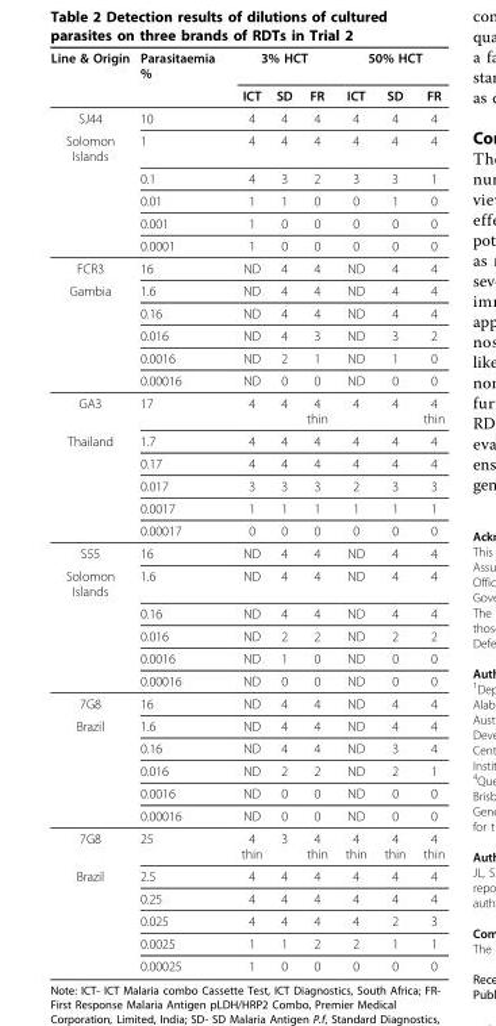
<table><thead><tr><td rowspan="2">Line &amp; Origin</td><td rowspan="2">Parasitaemia %</td><td colspan="3">3% HCT</td><td colspan="3">50% HCT</td></tr><tr><td>ICT</td><td>SD</td><td>FR</td><td>ICT</td><td>SD</td><td>FR</td></tr></thead><tbody><tr><td>SJ44</td><td>10</td><td>4</td><td>4</td><td>4</td><td>4</td><td>4</td><td>4</td></tr><tr><td rowspan="5">Solomon Islands</td><td>1</td><td>4</td><td>4</td><td>4</td><td>4</td><td>4</td><td>4</td></tr><tr><td>0.1</td><td>4</td><td>3</td><td>2</td><td>3</td><td>3</td><td>1</td></tr><tr><td>0.01</td><td>1</td><td>1</td><td>0</td><td>0</td><td>1</td><td>0</td></tr><tr><td>0.001</td><td>1</td><td>0</td><td>0</td><td>0</td><td>0</td><td>0</td></tr><tr><td>0.0001</td><td>1</td><td>0</td><td>0</td><td>0</td><td>0</td><td>0</td></tr><tr><td>FCR3</td><td>16</td><td>ND</td><td>4</td><td>4</td><td>ND</td><td>4</td><td>4</td></tr><tr><td rowspan="5">Gambia</td><td>1.6</td><td>ND</td><td>4</td><td>4</td><td>ND</td><td>4</td><td>4</td></tr><tr><td>0.16</td><td>ND</td><td>4</td><td>4</td><td>ND</td><td>4</td><td>4</td></tr><tr><td>0.016</td><td>ND</td><td>4</td><td>3</td><td>ND</td><td>3</td><td>2</td></tr><tr><td>0.0016</td><td>ND</td><td>2</td><td>1</td><td>ND</td><td>1</td><td>0</td></tr><tr><td>0.00016</td><td>ND</td><td>0</td><td>0</td><td>ND</td><td>0</td><td>0</td></tr><tr><td>GA3</td><td>17</td><td>4</td><td>4</td><td>4 thin</td><td>4</td><td>4</td><td>4 thin</td></tr><tr><td rowspan="5">Thailand</td><td>1.7</td><td>4</td><td>4</td><td>4</td><td>4</td><td>4</td><td>4</td></tr><tr><td>0.17</td><td>4</td><td>4</td><td>4</td><td>4</td><td>4</td><td>4</td></tr><tr><td>0.017</td><td>3</td><td>3</td><td>3</td><td>2</td><td>3</td><td>3</td></tr><tr><td>0.0017</td><td>1</td><td>1</td><td>1</td><td>1</td><td>1</td><td>1</td></tr><tr><td>0.00017</td><td>0</td><td>0</td><td>0</td><td>0</td><td>0</td><td>0</td></tr><tr><td>S55</td><td>16</td><td>ND</td><td>4</td><td>4</td><td>ND</td><td>4</td><td>4</td></tr><tr><td rowspan="5">Solomon Islands</td><td>1.6</td><td>ND</td><td>4</td><td>4</td><td>ND</td><td>4</td><td>4</td></tr><tr><td>0.16</td><td>ND</td><td>4</td><td>4</td><td>ND</td><td>4</td><td>4</td></tr><tr><td>0.016</td><td>ND</td><td>2</td><td>2</td><td>ND</td><td>2</td><td>2</td></tr><tr><td>0.0016</td><td>ND</td><td>1</td><td>0</td><td>ND</td><td>0</td><td>0</td></tr><tr><td>0.00016</td><td>ND</td><td>0</td><td>0</td><td>ND</td><td>0</td><td>0</td></tr><tr><td>7G8</td><td>16</td><td>ND</td><td>4</td><td>4</td><td>ND</td><td>4</td><td>4</td></tr><tr><td rowspan="5">Brazil</td><td>1.6</td><td>ND</td><td>4</td><td>4</td><td>ND</td><td>4</td><td>4</td></tr><tr><td>0.16</td><td>ND</td><td>4</td><td>4</td><td>ND</td><td>3</td><td>4</td></tr><tr><td>0.016</td><td>ND</td><td>2</td><td>2</td><td>ND</td><td>2</td><td>1</td></tr><tr><td>0.0016</td><td>ND</td><td>0</td><td>0</td><td>ND</td><td>0</td><td>0</td></tr><tr><td>0.00016</td><td>ND</td><td>0</td><td>0</td><td>ND</td><td>0</td><td>0</td></tr><tr><td>7G8</td><td>25</td><td>4 thin</td><td>3</td><td>4 thin</td><td>4 thin</td><td>4 thin</td><td>4 thin</td></tr><tr><td rowspan="5">Brazil</td><td>2.5</td><td>4</td><td>4</td><td>4</td><td>4</td><td>4</td><td>4</td></tr><tr><td>0.25</td><td>4</td><td>4</td><td>4</td><td>4</td><td>4</td><td>4</td></tr><tr><td>0.025</td><td>4</td><td>4</td><td>4</td><td>4</td><td>2</td><td>3</td></tr><tr><td>0.0025</td><td>1</td><td>1</td><td>2</td><td>2</td><td>1</td><td>1</td></tr><tr><td>0.00025</td><td>1</td><td>0</td><td>0</td><td>0</td><td>0</td><td>0</td></tr></tbody></table>